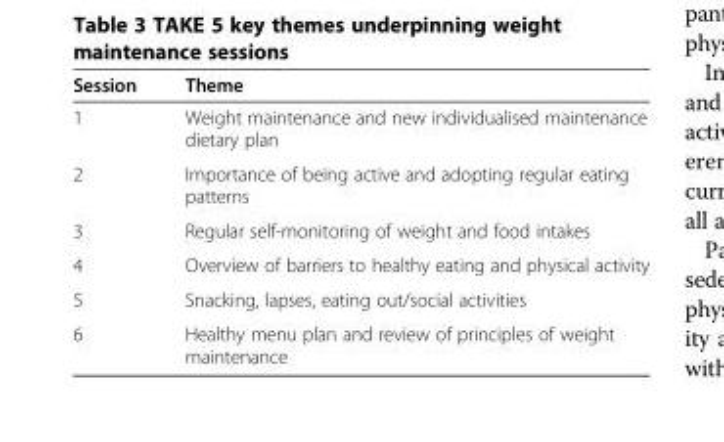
<table><thead><tr><td>Session</td><td>Theme</td></tr></thead><tbody><tr><td>1</td><td>Weight maintenance and new individualised maintenance dietary plan</td></tr><tr><td>2</td><td>Importance of being active and adopting regular eating patterns</td></tr><tr><td>3</td><td>Regular self-monitoring of weight and food intakes</td></tr><tr><td>4</td><td>Overview of barriers to healthy eating and physical activity</td></tr><tr><td>5</td><td>Snacking, lapses, eating out/social activities</td></tr><tr><td>6</td><td>Healthy menu plan and review of principles of weight maintenance</td></tr></tbody></table>